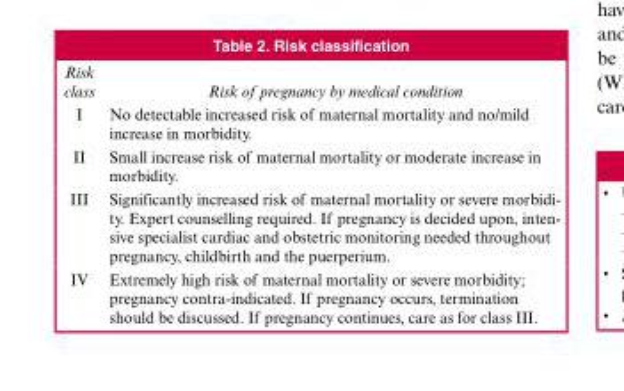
<table><thead><tr><td>Risk class</td><td>Risk of pregnancy by medical condition</td></tr></thead><tbody><tr><td>I</td><td>No detectable increased risk of maternal mortality and no/mild increase in morbidity.</td></tr><tr><td>II</td><td>Small increase risk of maternal mortality or moderate increase in morbidity.</td></tr><tr><td>III</td><td>Significantly increased risk of maternal mortality or severe morbidi- ty. Expert counselling required. If pregnancy is decided upon, inten- sive specialist cardiac and obstetric monitoring needed throughout pregnancy, childbirth and the puerperium.</td></tr><tr><td>IV</td><td>Extremely high risk of maternal mortality or severe morbidity; pregnancy contra-indicated. If pregnancy occurs, termination should be discussed. If pregnancy continues, care as for class III.</td></tr></tbody></table>